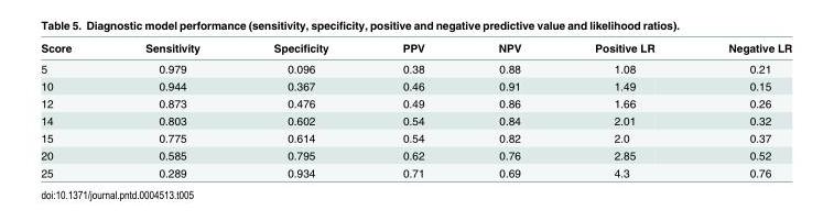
<table><thead><tr><td>Score</td><td>Sensitivity</td><td>Specificity</td><td>PPV</td><td>NPV</td><td>Positive LR</td><td>Negative LR</td></tr></thead><tbody><tr><td>5</td><td>0.979</td><td>0.096</td><td>0.38</td><td>0.88</td><td>1.08</td><td>0.21</td></tr><tr><td>10</td><td>0.944</td><td>0.367</td><td>0.46</td><td>0.91</td><td>1.49</td><td>0.15</td></tr><tr><td>12</td><td>0.873</td><td>0.476</td><td>0.49</td><td>0.86</td><td>1.66</td><td>0.26</td></tr><tr><td>14</td><td>0.803</td><td>0.602</td><td>0.54</td><td>0.84</td><td>2.01</td><td>0.32</td></tr><tr><td>15</td><td>0.775</td><td>0.614</td><td>0.54</td><td>0.82</td><td>2.0</td><td>0.37</td></tr><tr><td>20</td><td>0.585</td><td>0.795</td><td>0.62</td><td>0.76</td><td>2.85</td><td>0.52</td></tr><tr><td>25</td><td>0.289</td><td>0.934</td><td>0.71</td><td>0.69</td><td>4.3</td><td>0.76</td></tr></tbody></table>